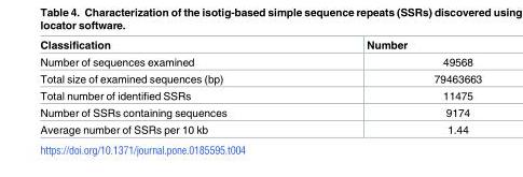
<table><thead><tr><td>Classification</td><td>Number</td></tr></thead><tbody><tr><td>Number of sequences examined</td><td>49568</td></tr><tr><td>Total size of examined sequences (bp)</td><td>79463663</td></tr><tr><td>Total number of identified SSRs</td><td>11475</td></tr><tr><td>Number of SSRs containing sequences</td><td>9174</td></tr><tr><td>Average number of SSRs per 10 kb</td><td>1.44</td></tr></tbody></table>